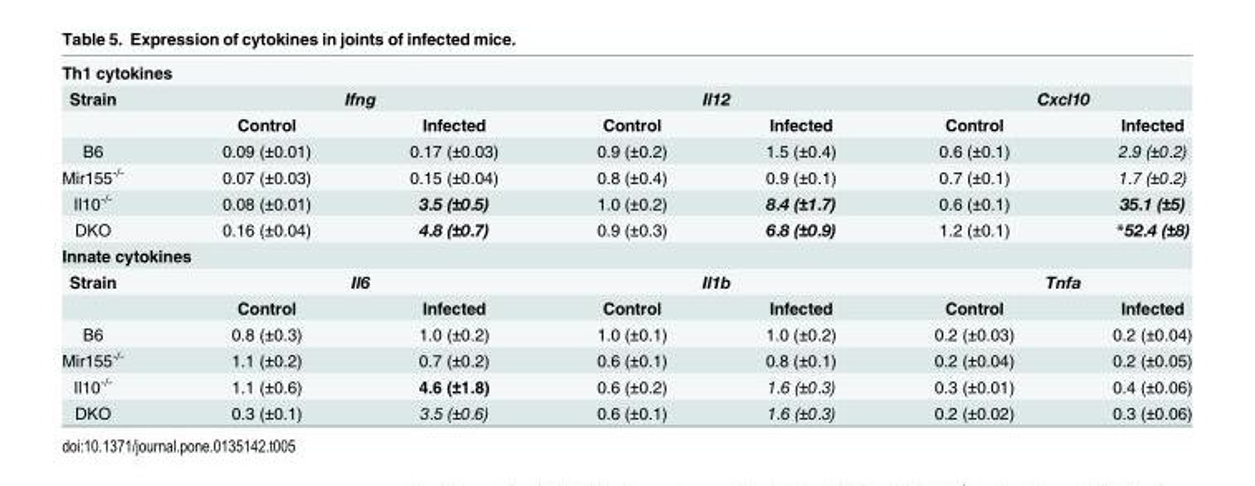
<table><tbody><tr><td colspan="7">Th1 cytokines</td></tr><tr><td rowspan="2">Strain</td><td colspan="2">Ifng</td><td colspan="2">Il12</td><td colspan="2">Cxcl10</td></tr><tr><td>Control</td><td>Infected</td><td>Control</td><td>Infected</td><td>Control</td><td>Infected</td></tr><tr><td>B6</td><td>0.09 (±0.01)</td><td>0.17 (±0.03)</td><td>0.9 (±0.2)</td><td>1.5 (±0.4)</td><td>0.6 (±0.1)</td><td>2.9 (±0.2)</td></tr><tr><td>Mir155<sup>-/-</sup></td><td>0.07 (±0.03)</td><td>0.15 (±0.04)</td><td>0.8 (±0.4)</td><td>0.9 (±0.1)</td><td>0.7 (±0.1)</td><td>1.7 (±0.2)</td></tr><tr><td>Il10<sup>-/-</sup></td><td>0.08 (±0.01)</td><td>3.5 (±0.5)</td><td>1.0 (±0.2)</td><td>8.4 (±1.7)</td><td>0.6 (±0.1)</td><td>35.1 (±5)</td></tr><tr><td>DKO</td><td>0.16 (±0.04)</td><td>4.8 (±0.7)</td><td>0.9 (±0.3)</td><td>6.8 (±0.9)</td><td>1.2 (±0.1)</td><td>*52.4 (±8)</td></tr><tr><td colspan="7">Innate cytokines</td></tr><tr><td rowspan="2">Strain</td><td colspan="2">Il6</td><td colspan="2">Il1b</td><td colspan="2">Tnfa</td></tr><tr><td>Control</td><td>Infected</td><td>Control</td><td>Infected</td><td>Control</td><td>Infected</td></tr><tr><td>B6</td><td>0.8 (±0.3)</td><td>1.0 (±0.2)</td><td>1.0 (±0.1)</td><td>1.0 (±0.2)</td><td>0.2 (±0.03)</td><td>0.2 (±0.04)</td></tr><tr><td>Mir155<sup>-/-</sup></td><td>1.1 (±0.2)</td><td>0.7 (±0.2)</td><td>0.6 (±0.1)</td><td>0.8 (±0.1)</td><td>0.2 (±0.04)</td><td>0.2 (±0.05)</td></tr><tr><td>Il10<sup>-/-</sup></td><td>1.1 (±0.6)</td><td>4.6 (±1.8)</td><td>0.6 (±0.2)</td><td>1.6 (±0.3)</td><td>0.3 (±0.01)</td><td>0.4 (±0.06)</td></tr><tr><td>DKO</td><td>0.3 (±0.1)</td><td>3.5 (±0.6)</td><td>0.6 (±0.1)</td><td>1.6 (±0.3)</td><td>0.2 (±0.02)</td><td>0.3 (±0.06)</td></tr></tbody></table>